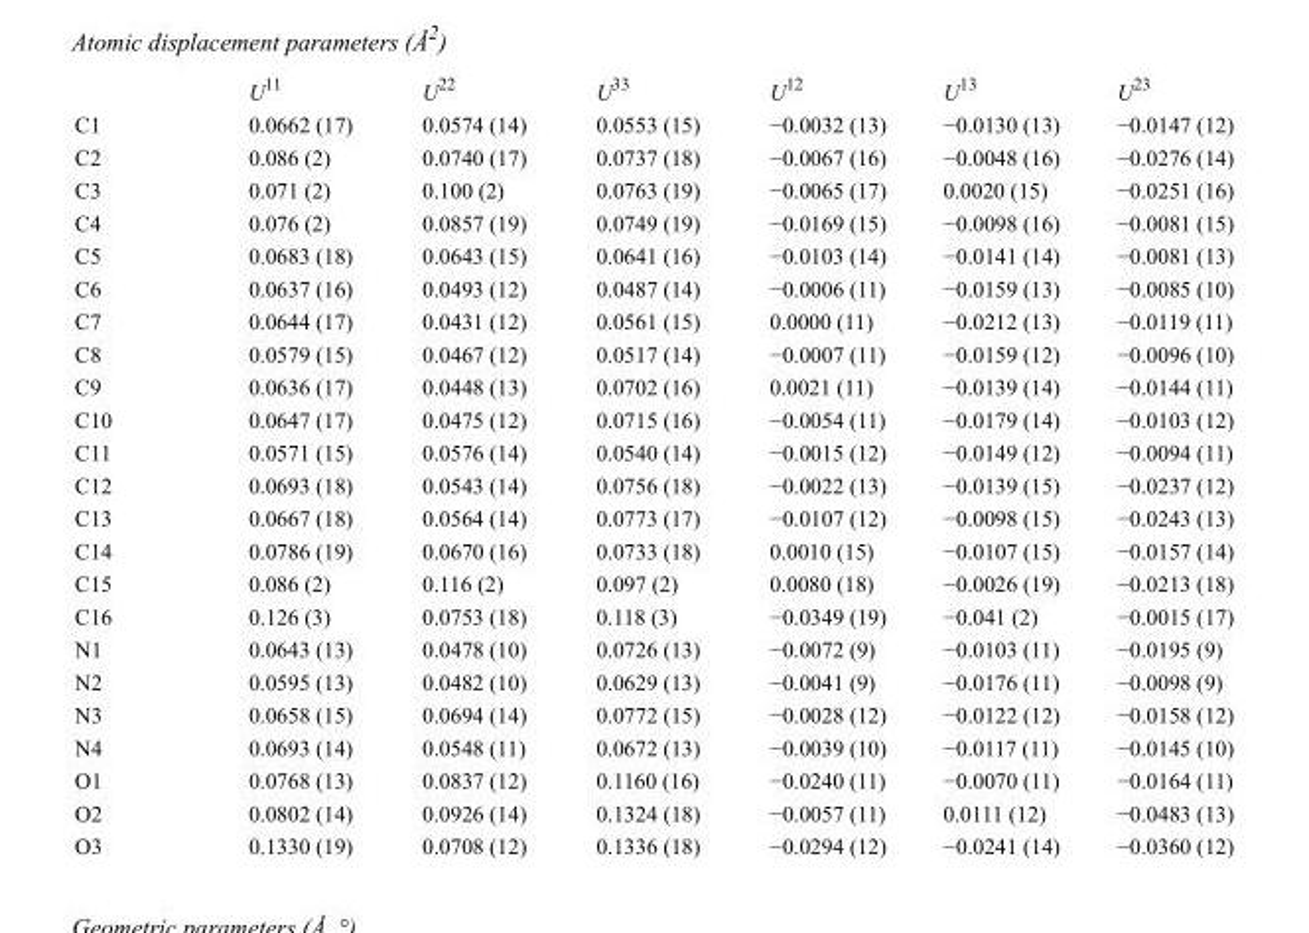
<table><thead><tr><td></td><td>U<sup>11</sup></td><td>U<sup>22</sup></td><td>U<sup>33</sup></td><td>U<sup>12</sup></td><td>U<sup>13</sup></td><td>U<sup>23</sup></td></tr></thead><tbody><tr><td>C1</td><td>0.0662 (17)</td><td>0.0574 (14)</td><td>0.0553 (15)</td><td>−0.0032 (13)</td><td>−0.0130 (13)</td><td>−0.0147 (12)</td></tr><tr><td>C2</td><td>0.086 (2)</td><td>0.0740 (17)</td><td>0.0737 (18)</td><td>−0.0067 (16)</td><td>−0.0048 (16)</td><td>−0.0276 (14)</td></tr><tr><td>C3</td><td>0.071 (2)</td><td>0.100 (2)</td><td>0.0763 (19)</td><td>−0.0065 (17)</td><td>0.0020 (15)</td><td>−0.0251 (16)</td></tr><tr><td>C4</td><td>0.076 (2)</td><td>0.0857 (19)</td><td>0.0749 (19)</td><td>−0.0169 (15)</td><td>−0.0098 (16)</td><td>−0.0081 (15)</td></tr><tr><td>C5</td><td>0.0683 (18)</td><td>0.0643 (15)</td><td>0.0641 (16)</td><td>−0.0103 (14)</td><td>−0.0141 (14)</td><td>−0.0081 (13)</td></tr><tr><td>C6</td><td>0.0637 (16)</td><td>0.0493 (12)</td><td>0.0487 (14)</td><td>−0.0006 (11)</td><td>−0.0159 (13)</td><td>−0.0085 (10)</td></tr><tr><td>C7</td><td>0.0644 (17)</td><td>0.0431 (12)</td><td>0.0561 (15)</td><td>0.0000 (11)</td><td>−0.0212 (13)</td><td>−0.0119 (11)</td></tr><tr><td>C8</td><td>0.0579 (15)</td><td>0.0467 (12)</td><td>0.0517 (14)</td><td>−0.0007 (11)</td><td>−0.0159 (12)</td><td>−0.0096 (10)</td></tr><tr><td>C9</td><td>0.0636 (17)</td><td>0.0448 (13)</td><td>0.0702 (16)</td><td>0.0021 (11)</td><td>−0.0139 (14)</td><td>−0.0144 (11)</td></tr><tr><td>C10</td><td>0.0647 (17)</td><td>0.0475 (12)</td><td>0.0715 (16)</td><td>−0.0054 (11)</td><td>−0.0179 (14)</td><td>−0.0103 (12)</td></tr><tr><td>C11</td><td>0.0571 (15)</td><td>0.0576 (14)</td><td>0.0540 (14)</td><td>−0.0015 (12)</td><td>−0.0149 (12)</td><td>−0.0094 (11)</td></tr><tr><td>C12</td><td>0.0693 (18)</td><td>0.0543 (14)</td><td>0.0756 (18)</td><td>−0.0022 (13)</td><td>−0.0139 (15)</td><td>−0.0237 (12)</td></tr><tr><td>C13</td><td>0.0667 (18)</td><td>0.0564 (14)</td><td>0.0773 (17)</td><td>−0.0107 (12)</td><td>−0.0098 (15)</td><td>−0.0243 (13)</td></tr><tr><td>C14</td><td>0.0786 (19)</td><td>0.0670 (16)</td><td>0.0733 (18)</td><td>0.0010 (15)</td><td>−0.0107 (15)</td><td>−0.0157 (14)</td></tr><tr><td>C15</td><td>0.086 (2)</td><td>0.116 (2)</td><td>0.097 (2)</td><td>0.0080 (18)</td><td>−0.0026 (19)</td><td>−0.0213 (18)</td></tr><tr><td>C16</td><td>0.126 (3)</td><td>0.0753 (18)</td><td>0.118 (3)</td><td>−0.0349 (19)</td><td>−0.041 (2)</td><td>−0.0015 (17)</td></tr><tr><td>N1</td><td>0.0643 (13)</td><td>0.0478 (10)</td><td>0.0726 (13)</td><td>−0.0072 (9)</td><td>−0.0103 (11)</td><td>−0.0195 (9)</td></tr><tr><td>N2</td><td>0.0595 (13)</td><td>0.0482 (10)</td><td>0.0629 (13)</td><td>−0.0041 (9)</td><td>−0.0176 (11)</td><td>−0.0098 (9)</td></tr><tr><td>N3</td><td>0.0658 (15)</td><td>0.0694 (14)</td><td>0.0772 (15)</td><td>−0.0028 (12)</td><td>−0.0122 (12)</td><td>−0.0158 (12)</td></tr><tr><td>N4</td><td>0.0693 (14)</td><td>0.0548 (11)</td><td>0.0672 (13)</td><td>−0.0039 (10)</td><td>−0.0117 (11)</td><td>−0.0145 (10)</td></tr><tr><td>O1</td><td>0.0768 (13)</td><td>0.0837 (12)</td><td>0.1160 (16)</td><td>−0.0240 (11)</td><td>−0.0070 (11)</td><td>−0.0164 (11)</td></tr><tr><td>O2</td><td>0.0802 (14)</td><td>0.0926 (14)</td><td>0.1324 (18)</td><td>−0.0057 (11)</td><td>0.0111 (12)</td><td>−0.0483 (13)</td></tr><tr><td>O3</td><td>0.1330 (19)</td><td>0.0708 (12)</td><td>0.1336 (18)</td><td>−0.0294 (12)</td><td>−0.0241 (14)</td><td>−0.0360 (12)</td></tr></tbody></table>